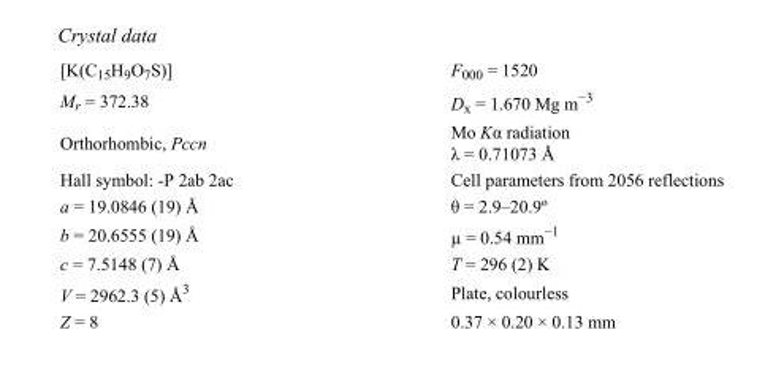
<table><tbody><tr><td>[K(C<sub>15</sub>H<sub>9</sub>O<sub>7</sub>S)]</td><td>F000 = 1520</td></tr><tr><td>M<sub>r</sub> = 372.38</td><td>D<sub>x</sub> = 1.670 Mg m<sup>−3</sup></td></tr><tr><td>Orthorhombic, Pccn</td><td>Mo Kα radiation λ = 0.71073 Å</td></tr><tr><td>Hall symbol: -P 2ab 2ac</td><td>Cell parameters from 2056 reflections</td></tr><tr><td>a = 19.0846 (19) Å</td><td>θ = 2.9–20.9º</td></tr><tr><td>b = 20.6555 (19) Å</td><td>µ = 0.54 mm<sup>−1</sup></td></tr><tr><td>c = 7.5148 (7) Å</td><td>T = 296 (2) K</td></tr><tr><td>V = 2962.3 (5) Å<sup>3</sup></td><td>Plate, colourless</td></tr><tr><td>Z = 8</td><td>0.37 × 0.20 × 0.13 mm</td></tr></tbody></table>